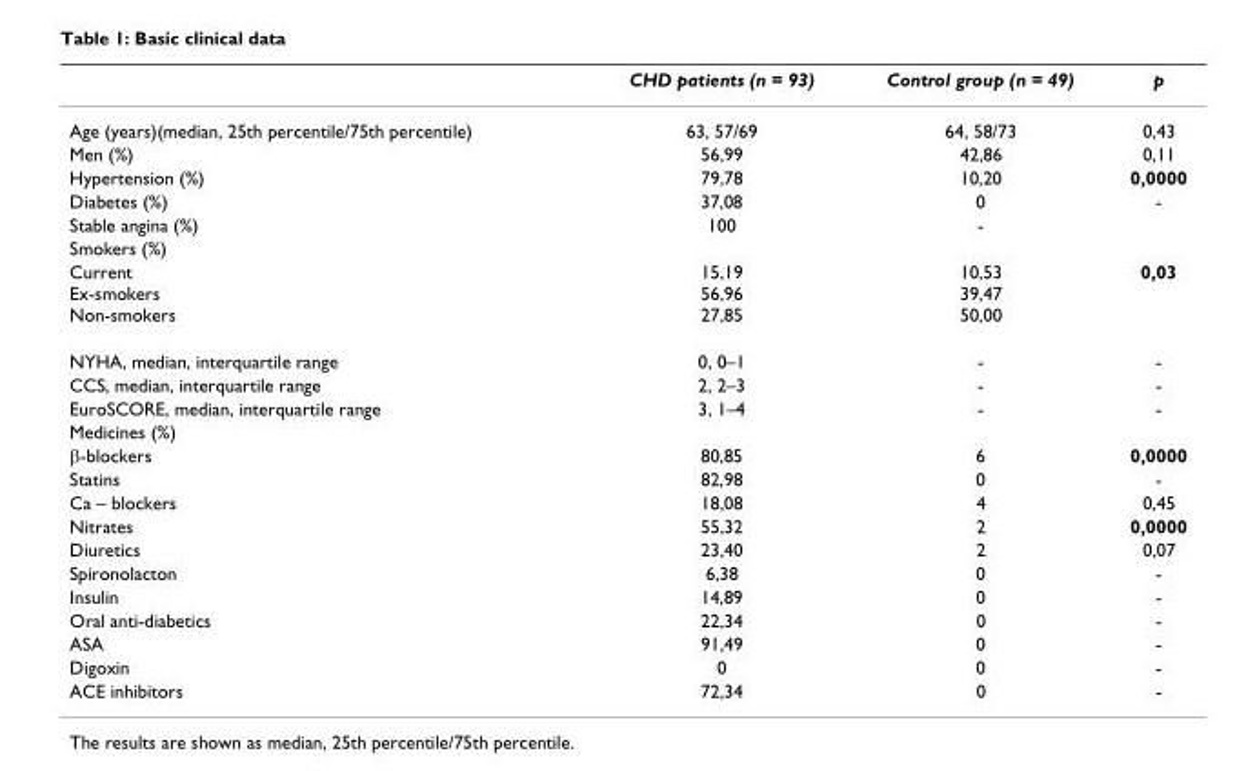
<table><thead><tr><td></td><td>CHD patients (n = 93)</td><td>Control group (n = 49)</td><td>p</td></tr></thead><tbody><tr><td>Age (years)(median, 25th percentile/75th percentile)</td><td>63, 57/69</td><td>64, 58/73</td><td>0,43</td></tr><tr><td>Men (%)</td><td>56,99</td><td>42,86</td><td>0,11</td></tr><tr><td>Hypertension (%)</td><td>79,78</td><td>10,20</td><td>0,0000</td></tr><tr><td>Diabetes (%)</td><td>37,08</td><td>0</td><td>-</td></tr><tr><td>Stable angina (%)</td><td>100</td><td>-</td><td></td></tr><tr><td colspan="4">Smokers (%)</td></tr><tr><td>Current Ex-smokers Non-smokers</td><td>15,19 56,96 27,85</td><td>10,53 39,47 50,00</td><td>0,03</td></tr><tr><td>NYHA, median, interquartile range</td><td>0, 0–1</td><td>-</td><td>-</td></tr><tr><td>CCS, median, interquartile range</td><td>2, 2–3</td><td>-</td><td>-</td></tr><tr><td>EuroSCORE, median, interquartile range</td><td>3, 1–4</td><td>-</td><td>-</td></tr><tr><td colspan="4">Medicines (%)</td></tr><tr><td>β-blockers</td><td>80,85</td><td>6</td><td>0,0000</td></tr><tr><td>Statins</td><td>82,98</td><td>0</td><td>-</td></tr><tr><td>Ca – blockers</td><td>18,08</td><td>4</td><td>0,45</td></tr><tr><td>Nitrates</td><td>55,32</td><td>2</td><td>0,0000</td></tr><tr><td>Diuretics</td><td>23,40</td><td>2</td><td>0,07</td></tr><tr><td>Spironolacton</td><td>6,38</td><td>0</td><td>-</td></tr><tr><td>Insulin</td><td>14,89</td><td>0</td><td>-</td></tr><tr><td>Oral anti-diabetics</td><td>22,34</td><td>0</td><td>-</td></tr><tr><td>ASA</td><td>91,49</td><td>0</td><td>-</td></tr><tr><td>Digoxin</td><td>0</td><td>0</td><td>-</td></tr><tr><td>ACE inhibitors</td><td>72,34</td><td>0</td><td>-</td></tr></tbody></table>